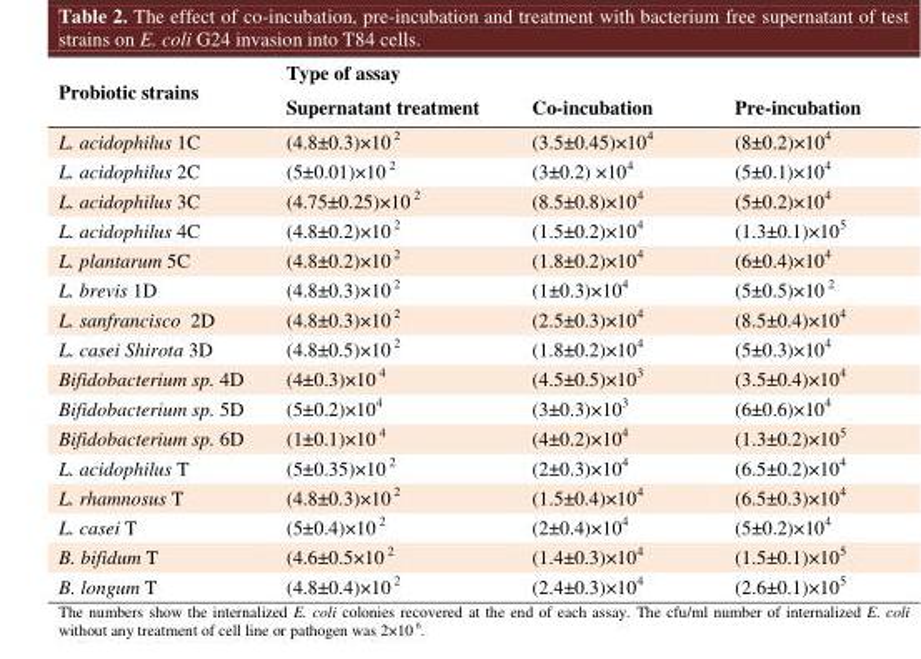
<table><thead><tr><td rowspan="2">Probiotic strains</td><td colspan="3">Type of assay</td></tr><tr><td>Supernatant treatment</td><td>Co-incubation</td><td>Pre-incubation</td></tr></thead><tbody><tr><td>L. acidophilus 1C</td><td>(4.8±0.3)×10 <sup>2</sup></td><td>(3.5±0.45)×10<sup>4</sup></td><td>(8±0.2)×10<sup>4</sup></td></tr><tr><td>L. acidophilus 2C</td><td>(5±0.01)×10 <sup>2</sup></td><td>(3±0.2) ×10<sup>4</sup></td><td>(5±0.1)×10<sup>4</sup></td></tr><tr><td>L. acidophilus 3C</td><td>(4.75±0.25)×10 <sup>2</sup></td><td>(8.5±0.8)×10<sup>4</sup></td><td>(5±0.2)×10<sup>4</sup></td></tr><tr><td>L. acidophilus 4C</td><td>(4.8±0.2)×10 <sup>2</sup></td><td>(1.5±0.2)×10<sup>4</sup></td><td>(1.3±0.1)×10<sup>5</sup></td></tr><tr><td>L. plantarum 5C</td><td>(4.8±0.2)×10 <sup>2</sup></td><td>(1.8±0.2)×10<sup>4</sup></td><td>(6±0.4)×10<sup>4</sup></td></tr><tr><td>L. brevis 1D</td><td>(4.8±0.3)×10 <sup>2</sup></td><td>(1±0.3)×10<sup>4</sup></td><td>(5±0.5)×10 <sup>2</sup></td></tr><tr><td>L. sanfrancisco 2D</td><td>(4.8±0.3)×10 <sup>2</sup></td><td>(2.5±0.3)×10<sup>4</sup></td><td>(8.5±0.4)×10<sup>4</sup></td></tr><tr><td>L. casei Shirota 3D</td><td>(4.8±0.5)×10 <sup>2</sup></td><td>(1.8±0.2)×10<sup>4</sup></td><td>(5±0.3)×10<sup>4</sup></td></tr><tr><td>Bifidobacterium sp. 4D</td><td>(4±0.3)×10 <sup>4</sup></td><td>(4.5±0.5)×10<sup>3</sup></td><td>(3.5±0.4)×10<sup>4</sup></td></tr><tr><td>Bifidobacterium sp. 5D</td><td>(5±0.2)×10<sup>4</sup></td><td>(3±0.3)×10<sup>3</sup></td><td>(6±0.6)×10<sup>4</sup></td></tr><tr><td>Bifidobacterium sp. 6D</td><td>(1±0.1)×10 <sup>4</sup></td><td>(4±0.2)×10<sup>4</sup></td><td>(1.3±0.2)×10<sup>5</sup></td></tr><tr><td>L. acidophilus T</td><td>(5±0.35)×10 <sup>2</sup></td><td>(2±0.3)×10<sup>4</sup></td><td>(6.5±0.2)×10<sup>4</sup></td></tr><tr><td>L. rhamnosus T</td><td>(4.8±0.3)×10 <sup>2</sup></td><td>(1.5±0.4)×10<sup>4</sup></td><td>(6.5±0.3)×10<sup>4</sup></td></tr><tr><td>L. casei T</td><td>(5±0.4)×10 <sup>2</sup></td><td>(2±0.4)×10<sup>4</sup></td><td>(5±0.2)×10<sup>4</sup></td></tr><tr><td>B. bifidum T</td><td>(4.6±0.5×10 <sup>2</sup></td><td>(1.4±0.3)×10<sup>4</sup></td><td>(1.5±0.1)×10<sup>5</sup></td></tr><tr><td>B. longum T</td><td>(4.8±0.4)×10 <sup>2</sup></td><td>(2.4±0.3)×10<sup>4</sup></td><td>(2.6±0.1)×10<sup>5</sup></td></tr></tbody></table>